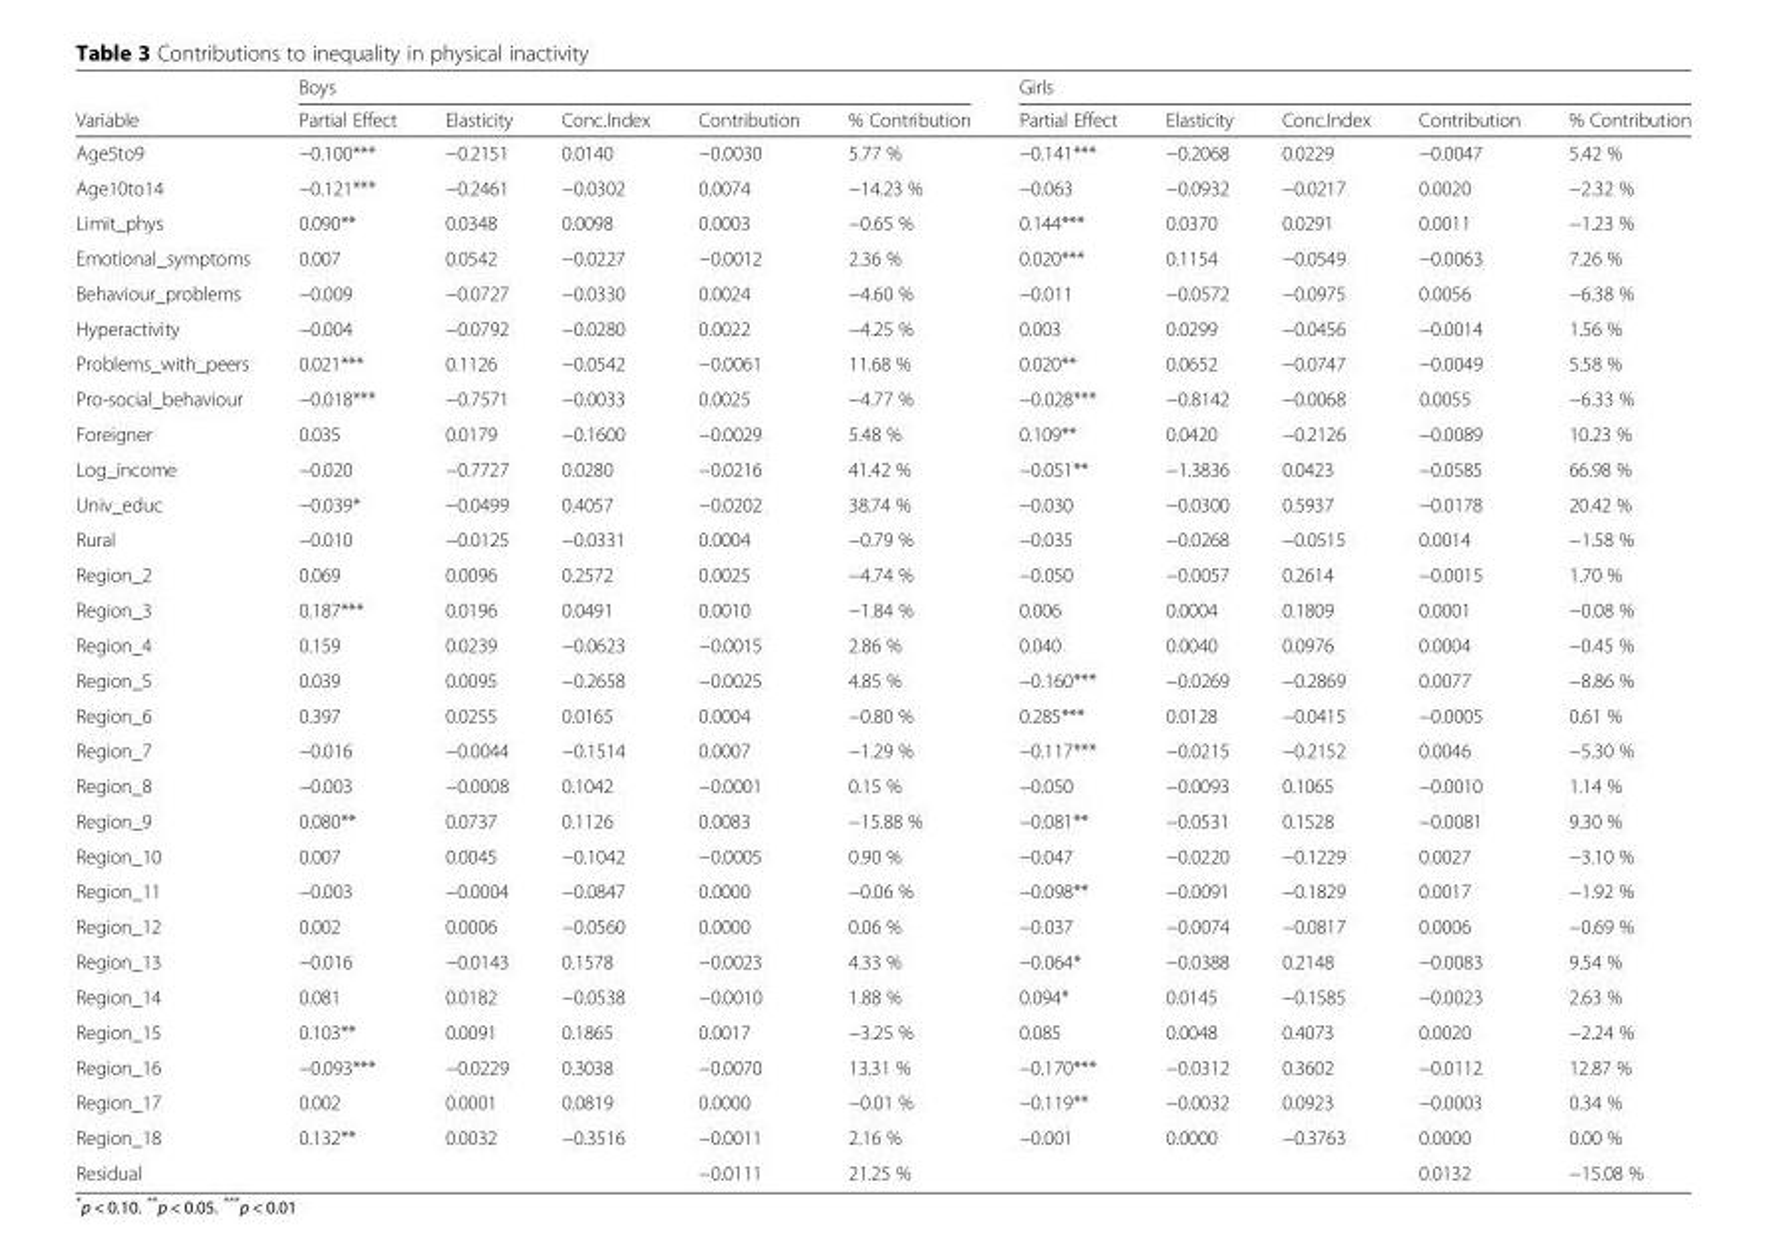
<table><thead><tr><td rowspan="2">Variable</td><td colspan="5">Boys</td><td colspan="5">Girls</td></tr><tr><td>Partial Effect</td><td>Elasticity</td><td>Conc.Index</td><td>Contribution</td><td>% Contribution</td><td>Partial Effect</td><td>Elasticity</td><td>Conc.Index</td><td>Contribution</td><td>% Contribution</td></tr></thead><tbody><tr><td>Age5to9</td><td>−0.100***</td><td>−0.2151</td><td>0.0140</td><td>−0.0030</td><td>5.77 %</td><td>−0.141***</td><td>−0.2068</td><td>0.0229</td><td>−0.0047</td><td>5.42 %</td></tr><tr><td>Age10to14</td><td>−0.121***</td><td>−0.2461</td><td>−0.0302</td><td>0.0074</td><td>−14.23 %</td><td>−0.063</td><td>−0.0932</td><td>−0.0217</td><td>0.0020</td><td>−2.32 %</td></tr><tr><td>Limit_phys</td><td>0.090**</td><td>0.0348</td><td>0.0098</td><td>0.0003</td><td>−0.65 %</td><td>0.144***</td><td>0.0370</td><td>0.0291</td><td>0.0011</td><td>−1.23 %</td></tr><tr><td>Emotional_symptoms</td><td>0.007</td><td>0.0542</td><td>−0.0227</td><td>−0.0012</td><td>2.36 %</td><td>0.020***</td><td>0.1154</td><td>−0.0549</td><td>−0.0063</td><td>7.26 %</td></tr><tr><td>Behaviour_problems</td><td>−0.009</td><td>−0.0727</td><td>−0.0330</td><td>0.0024</td><td>−4.60 %</td><td>−0.011</td><td>−0.0572</td><td>−0.0975</td><td>0.0056</td><td>−6.38 %</td></tr><tr><td>Hyperactivity</td><td>−0.004</td><td>−0.0792</td><td>−0.0280</td><td>0.0022</td><td>−4.25 %</td><td>0.003</td><td>0.0299</td><td>−0.0456</td><td>−0.0014</td><td>1.56 %</td></tr><tr><td>Problems_with_peers</td><td>0.021***</td><td>0.1126</td><td>−0.0542</td><td>−0.0061</td><td>11.68 %</td><td>0.020**</td><td>0.0652</td><td>−0.0747</td><td>−0.0049</td><td>5.58 %</td></tr><tr><td>Pro-social_behaviour</td><td>−0.018***</td><td>−0.7571</td><td>−0.0033</td><td>0.0025</td><td>−4.77 %</td><td>−0.028***</td><td>−0.8142</td><td>−0.0068</td><td>0.0055</td><td>−6.33 %</td></tr><tr><td>Foreigner</td><td>0.035</td><td>0.0179</td><td>−0.1600</td><td>−0.0029</td><td>5.48 %</td><td>0.109**</td><td>0.0420</td><td>−0.2126</td><td>−0.0089</td><td>10.23 %</td></tr><tr><td>Log_income</td><td>−0.020</td><td>−0.7727</td><td>0.0280</td><td>−0.0216</td><td>41.42 %</td><td>−0.051**</td><td>−1.3836</td><td>0.0423</td><td>−0.0585</td><td>66.98 %</td></tr><tr><td>Univ_educ</td><td>−0.039*</td><td>−0.0499</td><td>0.4057</td><td>−0.0202</td><td>38.74 %</td><td>−0.030</td><td>−0.0300</td><td>0.5937</td><td>−0.0178</td><td>20.42 %</td></tr><tr><td>Rural</td><td>−0.010</td><td>−0.0125</td><td>−0.0331</td><td>0.0004</td><td>−0.79 %</td><td>−0.035</td><td>−0.0268</td><td>−0.0515</td><td>0.0014</td><td>−1.58 %</td></tr><tr><td>Region_2</td><td>0.069</td><td>0.0096</td><td>0.2572</td><td>0.0025</td><td>−4.74 %</td><td>−0.050</td><td>−0.0057</td><td>0.2614</td><td>−0.0015</td><td>1.70 %</td></tr><tr><td>Region_3</td><td>0.187***</td><td>0.0196</td><td>0.0491</td><td>0.0010</td><td>−1.84 %</td><td>0.006</td><td>0.0004</td><td>0.1809</td><td>0.0001</td><td>−0.08 %</td></tr><tr><td>Region_4</td><td>0.159</td><td>0.0239</td><td>−0.0623</td><td>−0.0015</td><td>2.86 %</td><td>0.040</td><td>0.0040</td><td>0.0976</td><td>0.0004</td><td>−0.45 %</td></tr><tr><td>Region_5</td><td>0.039</td><td>0.0095</td><td>−0.2658</td><td>−0.0025</td><td>4.85 %</td><td>−0.160***</td><td>−0.0269</td><td>−0.2869</td><td>0.0077</td><td>−8.86 %</td></tr><tr><td>Region_6</td><td>0.397</td><td>0.0255</td><td>0.0165</td><td>0.0004</td><td>−0.80 %</td><td>0.285***</td><td>0.0128</td><td>−0.0415</td><td>−0.0005</td><td>0.61 %</td></tr><tr><td>Region_7</td><td>−0.016</td><td>−0.0044</td><td>−0.1514</td><td>0.0007</td><td>−1.29 %</td><td>−0.117***</td><td>−0.0215</td><td>−0.2152</td><td>0.0046</td><td>−5.30 %</td></tr><tr><td>Region_8</td><td>−0.003</td><td>−0.0008</td><td>0.1042</td><td>−0.0001</td><td>0.15 %</td><td>−0.050</td><td>−0.0093</td><td>0.1065</td><td>−0.0010</td><td>1.14 %</td></tr><tr><td>Region_9</td><td>0.080**</td><td>0.0737</td><td>0.1126</td><td>0.0083</td><td>−15.88 %</td><td>−0.081**</td><td>−0.0531</td><td>0.1528</td><td>−0.0081</td><td>9.30 %</td></tr><tr><td>Region_10</td><td>0.007</td><td>0.0045</td><td>−0.1042</td><td>−0.0005</td><td>0.90 %</td><td>−0.047</td><td>−0.0220</td><td>−0.1229</td><td>0.0027</td><td>−3.10 %</td></tr><tr><td>Region_11</td><td>−0.003</td><td>−0.0004</td><td>−0.0847</td><td>0.0000</td><td>−0.06 %</td><td>−0.098**</td><td>−0.0091</td><td>−0.1829</td><td>0.0017</td><td>−1.92 %</td></tr><tr><td>Region_12</td><td>0.002</td><td>0.0006</td><td>−0.0560</td><td>0.0000</td><td>0.06 %</td><td>−0.037</td><td>−0.0074</td><td>−0.0817</td><td>0.0006</td><td>−0.69 %</td></tr><tr><td>Region_13</td><td>−0.016</td><td>−0.0143</td><td>0.1578</td><td>−0.0023</td><td>4.33 %</td><td>−0.064*</td><td>−0.0388</td><td>0.2148</td><td>−0.0083</td><td>9.54 %</td></tr><tr><td>Region_14</td><td>0.081</td><td>0.0182</td><td>−0.0538</td><td>−0.0010</td><td>1.88 %</td><td>0.094*</td><td>0.0145</td><td>−0.1585</td><td>−0.0023</td><td>2.63 %</td></tr><tr><td>Region_15</td><td>0.103**</td><td>0.0091</td><td>0.1865</td><td>0.0017</td><td>−3.25 %</td><td>0.085</td><td>0.0048</td><td>0.4073</td><td>0.0020</td><td>−2.24 %</td></tr><tr><td>Region_16</td><td>−0.093***</td><td>−0.0229</td><td>0.3038</td><td>−0.0070</td><td>13.31 %</td><td>−0.170***</td><td>−0.0312</td><td>0.3602</td><td>−0.0112</td><td>12.87 %</td></tr><tr><td>Region_17</td><td>0.002</td><td>0.0001</td><td>0.0819</td><td>0.0000</td><td>−0.01 %</td><td>−0.119**</td><td>−0.0032</td><td>0.0923</td><td>−0.0003</td><td>0.34 %</td></tr><tr><td>Region_18</td><td>0.132**</td><td>0.0032</td><td>−0.3516</td><td>−0.0011</td><td>2.16 %</td><td>−0.001</td><td>0.0000</td><td>−0.3763</td><td>0.0000</td><td>0.00 %</td></tr><tr><td>Residual</td><td></td><td></td><td></td><td>−0.0111</td><td>21.25 %</td><td></td><td></td><td></td><td>0.0132</td><td>−15.08 %</td></tr></tbody></table>